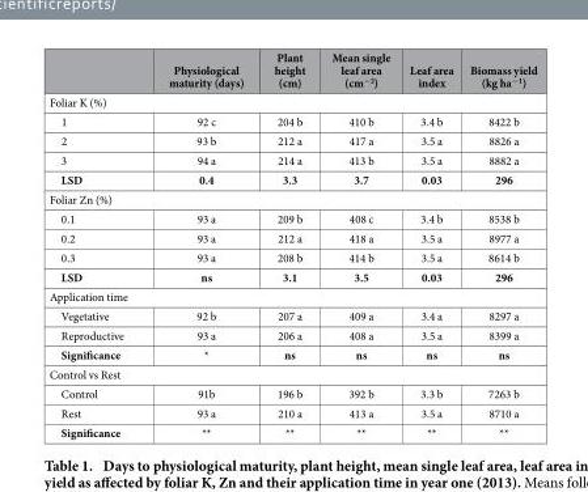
<table><thead><tr><td></td><td>Physiological maturity (days)</td><td>Plant height (cm)</td><td>Mean single leaf area (cm<sup>−2</sup>)</td><td>Leaf area index</td><td>Biomass yield (kg ha<sup>−1</sup>)</td></tr></thead><tbody><tr><td colspan="6">Foliar K (%)</td></tr><tr><td>1</td><td>92 c</td><td>204 b</td><td>410 b</td><td>3.4 b</td><td>8422 b</td></tr><tr><td>2</td><td>93 b</td><td>212 a</td><td>417 a</td><td>3.5 a</td><td>8826 a</td></tr><tr><td>3</td><td>94 a</td><td>214 a</td><td>413 b</td><td>3.5 a</td><td>8882 a</td></tr><tr><td>LSD</td><td>0.4</td><td>3.3</td><td>3.7</td><td>0.03</td><td>296</td></tr><tr><td colspan="6">Foliar Zn (%)</td></tr><tr><td>0.1</td><td>93 a</td><td>209 b</td><td>408 c</td><td>3.4 b</td><td>8538 b</td></tr><tr><td>0.2</td><td>93 a</td><td>212 a</td><td>418 a</td><td>3.5 a</td><td>8977 a</td></tr><tr><td>0.3</td><td>93 a</td><td>208 b</td><td>414 b</td><td>3.5 a</td><td>8614 b</td></tr><tr><td>LSD</td><td>ns</td><td>3.1</td><td>3.5</td><td>0.03</td><td>296</td></tr><tr><td colspan="6">Application time</td></tr><tr><td>Vegetative</td><td>92 b</td><td>207 a</td><td>409 a</td><td>3.4 a</td><td>8297 a</td></tr><tr><td>Reproductive</td><td>93 a</td><td>206 a</td><td>408 a</td><td>3.5 a</td><td>8399 a</td></tr><tr><td>Significance</td><td>*</td><td>ns</td><td>ns</td><td>ns</td><td>ns</td></tr><tr><td colspan="6">Control vs Rest</td></tr><tr><td>Control</td><td>91b</td><td>196 b</td><td>392 b</td><td>3.3 b</td><td>7263 b</td></tr><tr><td>Rest</td><td>93 a</td><td>210 a</td><td>413 a</td><td>3.5 a</td><td>8710 a</td></tr><tr><td>Significance</td><td>**</td><td>**</td><td>**</td><td>**</td><td>**</td></tr></tbody></table>